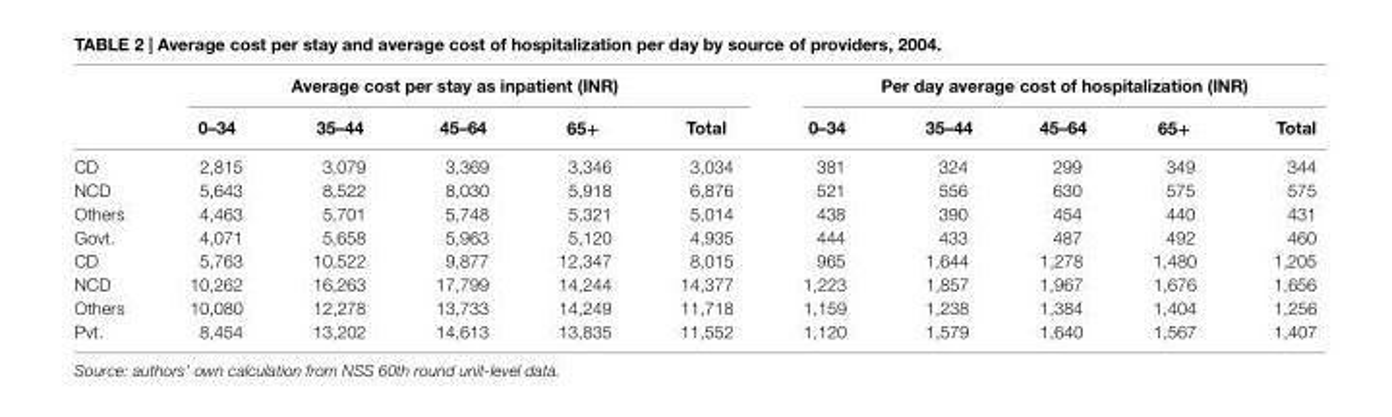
<table><thead><tr><td rowspan="2"></td><td colspan="5">average cost per stay as inpatient (inr)</td><td colspan="5">Per day average cost of hospitalization (inr)</td></tr><tr><td>0–34</td><td>35–44</td><td>45–64</td><td>65+</td><td>Total</td><td>0–34</td><td>35–44</td><td>45–64</td><td>65+</td><td>Total</td></tr></thead><tbody><tr><td>CD</td><td>2,815</td><td>3,079</td><td>3,369</td><td>3,346</td><td>3,034</td><td>381</td><td>324</td><td>299</td><td>349</td><td>344</td></tr><tr><td>NCD</td><td>5,643</td><td>8,522</td><td>8,030</td><td>5,918</td><td>6,876</td><td>521</td><td>556</td><td>630</td><td>575</td><td>575</td></tr><tr><td>Others</td><td>4,463</td><td>5,701</td><td>5,748</td><td>5,321</td><td>5,014</td><td>438</td><td>390</td><td>454</td><td>440</td><td>431</td></tr><tr><td>Govt.</td><td>4,071</td><td>5,658</td><td>5,963</td><td>5,120</td><td>4,935</td><td>444</td><td>433</td><td>487</td><td>492</td><td>460</td></tr><tr><td>CD</td><td>5,763</td><td>10,522</td><td>9,877</td><td>12,347</td><td>8,015</td><td>965</td><td>1,644</td><td>1,278</td><td>1,480</td><td>1,205</td></tr><tr><td>NCD</td><td>10,262</td><td>16,263</td><td>17,799</td><td>14,244</td><td>14,377</td><td>1,223</td><td>1,857</td><td>1,967</td><td>1,676</td><td>1,656</td></tr><tr><td>Others</td><td>10,080</td><td>12,278</td><td>13,733</td><td>14,249</td><td>11,718</td><td>1,159</td><td>1,238</td><td>1,384</td><td>1,404</td><td>1,256</td></tr><tr><td>Pvt.</td><td>8,454</td><td>13,202</td><td>14,613</td><td>13,835</td><td>11,552</td><td>1,120</td><td>1,579</td><td>1,640</td><td>1,567</td><td>1,407</td></tr></tbody></table>